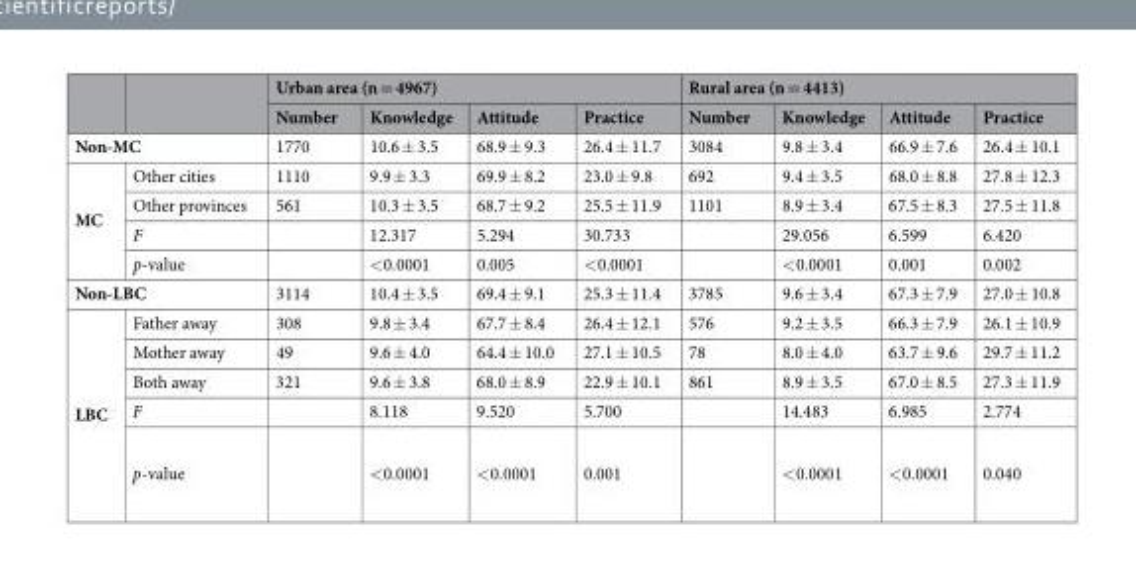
<table><thead><tr><td rowspan="2"></td><td rowspan="2"></td><td colspan="4">Urban area (n = 4967)</td><td colspan="4">Rural area (n = 4413)</td></tr><tr><td>Number</td><td>Knowledge</td><td>Attitude</td><td>Practice</td><td>Number</td><td>Knowledge</td><td>Attitude</td><td>Practice</td></tr></thead><tbody><tr><td colspan="2">Non-MC</td><td>1770</td><td>10.6 ± 3.5</td><td>68.9 ± 9.3</td><td>26.4 ± 11.7</td><td>3084</td><td>9.8 ± 3.4</td><td>66.9 ± 7.6</td><td>26.4 ± 10.1</td></tr><tr><td rowspan="4">MC</td><td>Other cities</td><td>1110</td><td>9.9 ± 3.3</td><td>69.9 ± 8.2</td><td>23.0 ± 9.8</td><td>692</td><td>9.4 ± 3.5</td><td>68.0 ± 8.8</td><td>27.8 ± 12.3</td></tr><tr><td>Other provinces</td><td>561</td><td>10.3 ± 3.5</td><td>68.7 ± 9.2</td><td>25.5 ± 11.9</td><td>1101</td><td>8.9 ± 3.4</td><td>67.5 ± 8.3</td><td>27.5 ± 11.8</td></tr><tr><td>F</td><td></td><td>12.317</td><td>5.294</td><td>30.733</td><td></td><td>29.056</td><td>6.599</td><td>6.420</td></tr><tr><td>p-value</td><td></td><td>&lt;0.0001</td><td>0.005</td><td>&lt;0.0001</td><td></td><td>&lt;0.0001</td><td>0.001</td><td>0.002</td></tr><tr><td colspan="2">Non-LBC</td><td>3114</td><td>10.4 ± 3.5</td><td>69.4 ± 9.1</td><td>25.3 ± 11.4</td><td>3785</td><td>9.6 ± 3.4</td><td>67.3 ± 7.9</td><td>27.0 ± 10.8</td></tr><tr><td rowspan="5">LBC</td><td>Father away</td><td>308</td><td>9.8 ± 3.4</td><td>67.7 ± 8.4</td><td>26.4 ± 12.1</td><td>576</td><td>9.2 ± 3.5</td><td>66.3 ± 7.9</td><td>26.1 ± 10.9</td></tr><tr><td>Mother away</td><td>49</td><td>9.6 ± 4.0</td><td>64.4 ± 10.0</td><td>27.1 ± 10.5</td><td>78</td><td>8.0 ± 4.0</td><td>63.7 ± 9.6</td><td>29.7 ± 11.2</td></tr><tr><td>Both away</td><td>321</td><td>9.6 ± 3.8</td><td>68.0 ± 8.9</td><td>22.9 ± 10.1</td><td>861</td><td>8.9 ± 3.5</td><td>67.0 ± 8.5</td><td>27.3 ± 11.9</td></tr><tr><td>F</td><td></td><td>8.118</td><td>9.520</td><td>5.700</td><td></td><td>14.483</td><td>6.985</td><td>2.774</td></tr><tr><td>p-value</td><td></td><td>&lt;0.0001</td><td>&lt;0.0001</td><td>0.001</td><td></td><td>&lt;0.0001</td><td>&lt;0.0001</td><td>0.040</td></tr></tbody></table>